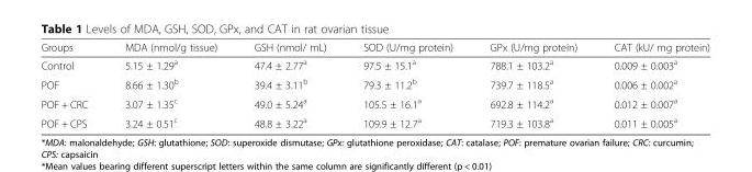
<table><thead><tr><td>Groups</td><td>MDA (nmol/g tissue)</td><td>GSH (nmol/ mL)</td><td>SOD (U/mg protein)</td><td>GPx (U/mg protein)</td><td>CAT (kU/ mg protein)</td></tr></thead><tbody><tr><td>Control</td><td>5.15 ± 1.29<sup>a</sup></td><td>47.4 ± 2.77<sup>a</sup></td><td>97.5 ± 15.1<sup>a</sup></td><td>788.1 ± 103.2<sup>a</sup></td><td>0.009 ± 0.003<sup>a</sup></td></tr><tr><td>POF</td><td>8.66 ± 1.30<sup>b</sup></td><td>39.4 ± 3.11<sup>b</sup></td><td>79.3 ± 11.2<sup>b</sup></td><td>739.7 ± 118.5<sup>a</sup></td><td>0.006 ± 0.002<sup>a</sup></td></tr><tr><td>POF + CRC</td><td>3.07 ± 1.35<sup>c</sup></td><td>49.0 ± 5.24<sup>a</sup></td><td>105.5 ± 16.1<sup>a</sup></td><td>692.8 ± 114.2<sup>a</sup></td><td>0.012 ± 0.007<sup>a</sup></td></tr><tr><td>POF + CPS</td><td>3.24 ± 0.51<sup>c</sup></td><td>48.8 ± 3.22<sup>a</sup></td><td>109.9 ± 12.7<sup>a</sup></td><td>719.3 ± 103.8<sup>a</sup></td><td>0.011 ± 0.005<sup>a</sup></td></tr></tbody></table>